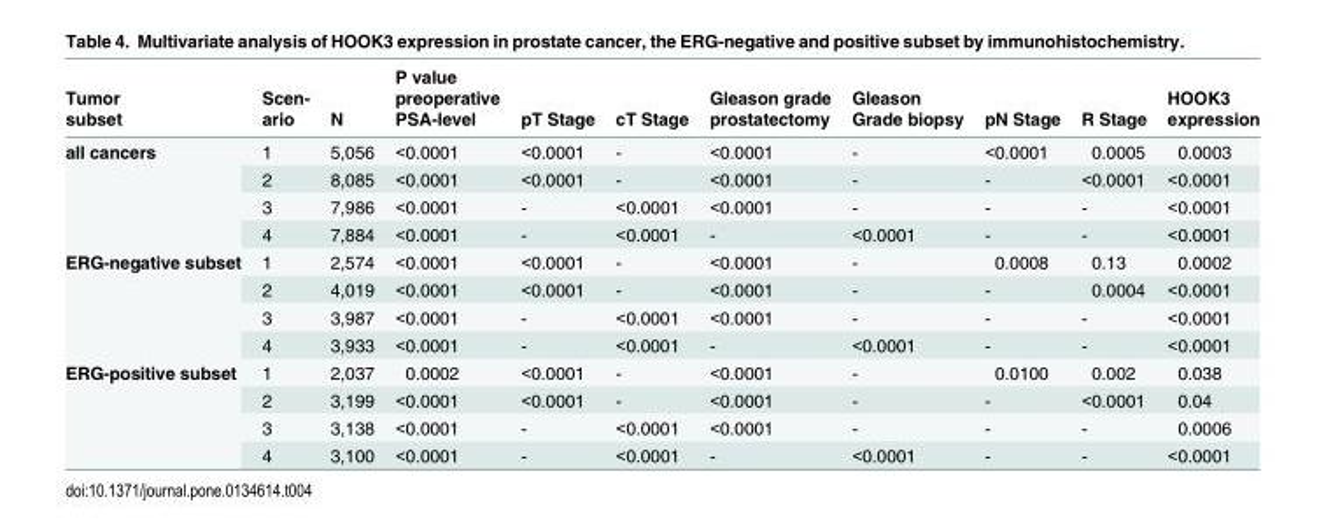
<table><thead><tr><td rowspan="3">Tumor subset</td><td rowspan="3">Scen- ario</td><td rowspan="3">N</td><td rowspan="3">P value preoperative PSA-level</td><td rowspan="3">pT Stage</td><td rowspan="3">cT Stage</td><td rowspan="3">Gleason grade prostatectomy</td><td rowspan="3">Gleason Grade biopsy</td><td rowspan="3">pN Stage</td><td rowspan="3">R Stage</td><td rowspan="3">HOOK3 expression</td></tr><tr></tr><tr></tr></thead><tbody><tr><td rowspan="4">all cancers</td><td>1</td><td>5,056</td><td>&lt;0.0001</td><td>&lt;0.0001</td><td>-</td><td>&lt;0.0001</td><td>-</td><td>&lt;0.0001</td><td>0.0005</td><td>0.0003</td></tr><tr><td>2</td><td>8,085</td><td>&lt;0.0001</td><td>&lt;0.0001</td><td>-</td><td>&lt;0.0001</td><td>-</td><td>-</td><td>&lt;0.0001</td><td>&lt;0.0001</td></tr><tr><td>3</td><td>7,986</td><td>&lt;0.0001</td><td>-</td><td>&lt;0.0001</td><td>&lt;0.0001</td><td>-</td><td>-</td><td>-</td><td>&lt;0.0001</td></tr><tr><td>4</td><td>7,884</td><td>&lt;0.0001</td><td>-</td><td>&lt;0.0001</td><td>-</td><td>&lt;0.0001</td><td>-</td><td>-</td><td>&lt;0.0001</td></tr><tr><td rowspan="4">ERG-negative subset</td><td>1</td><td>2,574</td><td>&lt;0.0001</td><td>&lt;0.0001</td><td>-</td><td>&lt;0.0001</td><td>-</td><td>0.0008</td><td>0.13</td><td>0.0002</td></tr><tr><td>2</td><td>4,019</td><td>&lt;0.0001</td><td>&lt;0.0001</td><td>-</td><td>&lt;0.0001</td><td>-</td><td>-</td><td>0.0004</td><td>&lt;0.0001</td></tr><tr><td>3</td><td>3,987</td><td>&lt;0.0001</td><td>-</td><td>&lt;0.0001</td><td>&lt;0.0001</td><td>-</td><td>-</td><td>-</td><td>&lt;0.0001</td></tr><tr><td>4</td><td>3,933</td><td>&lt;0.0001</td><td>-</td><td>&lt;0.0001</td><td>-</td><td>&lt;0.0001</td><td>-</td><td>-</td><td>&lt;0.0001</td></tr><tr><td rowspan="4">ERG-positive subset</td><td>1</td><td>2,037</td><td>0.0002</td><td>&lt;0.0001</td><td>-</td><td>&lt;0.0001</td><td>-</td><td>0.0100</td><td>0.002</td><td>0.038</td></tr><tr><td>2</td><td>3,199</td><td>&lt;0.0001</td><td>&lt;0.0001</td><td>-</td><td>&lt;0.0001</td><td>-</td><td>-</td><td>&lt;0.0001</td><td>0.04</td></tr><tr><td>3</td><td>3,138</td><td>&lt;0.0001</td><td>-</td><td>&lt;0.0001</td><td>&lt;0.0001</td><td>-</td><td>-</td><td>-</td><td>0.0006</td></tr><tr><td>4</td><td>3,100</td><td>&lt;0.0001</td><td>-</td><td>&lt;0.0001</td><td>-</td><td>&lt;0.0001</td><td>-</td><td>-</td><td>&lt;0.0001</td></tr></tbody></table>